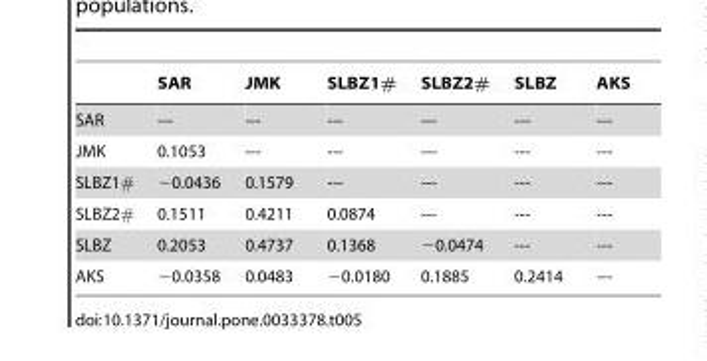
<table><thead><tr><td></td><td>SAR</td><td>JMK</td><td>SLBZ1#</td><td>SLBZ2#</td><td>SLBZ</td><td>AKS</td></tr></thead><tbody><tr><td>SAR</td><td>---</td><td>---</td><td>---</td><td>---</td><td>---</td><td>---</td></tr><tr><td>JMK</td><td>0.1053</td><td>---</td><td>---</td><td>---</td><td>---</td><td>---</td></tr><tr><td>SLBZ1#</td><td>−0.0436</td><td>0.1579</td><td>---</td><td>---</td><td>---</td><td>---</td></tr><tr><td>SLBZ2#</td><td>0.1511</td><td>0.4211</td><td>0.0874</td><td>---</td><td>---</td><td>---</td></tr><tr><td>SLBZ</td><td>0.2053</td><td>0.4737</td><td>0.1368</td><td>−0.0474</td><td>---</td><td>---</td></tr><tr><td>AKS</td><td>−0.0358</td><td>0.0483</td><td>−0.0180</td><td>0.1885</td><td>0.2414</td><td>---</td></tr></tbody></table>